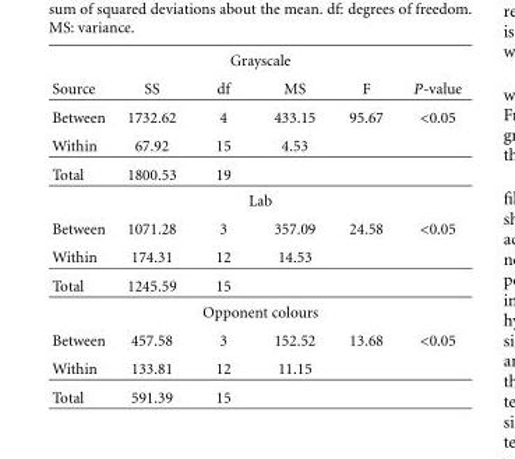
<table><thead><tr><td colspan="6">Grayscale</td></tr><tr><td>Source</td><td>SS</td><td>df</td><td>MS</td><td>F</td><td>P-value</td></tr></thead><tbody><tr><td>Between</td><td>1732.62</td><td>4</td><td>433.15</td><td>95.67</td><td>&lt;0.05</td></tr><tr><td>Within</td><td>67.92</td><td>15</td><td>4.53</td><td></td><td></td></tr><tr><td>Total</td><td>1800.53</td><td>19</td><td></td><td></td><td></td></tr><tr><td colspan="6">Lab</td></tr><tr><td>Between</td><td>1071.28</td><td>3</td><td>357.09</td><td>24.58</td><td>&lt;0.05</td></tr><tr><td>Within</td><td>174.31</td><td>12</td><td>14.53</td><td></td><td></td></tr><tr><td>Total</td><td>1245.59</td><td>15</td><td></td><td></td><td></td></tr><tr><td colspan="6">Opponent colours</td></tr><tr><td>Between</td><td>457.58</td><td>3</td><td>152.52</td><td>13.68</td><td>&lt;0.05</td></tr><tr><td>Within</td><td>133.81</td><td>12</td><td>11.15</td><td></td><td></td></tr><tr><td>Total</td><td>591.39</td><td>15</td><td></td><td></td><td></td></tr></tbody></table>